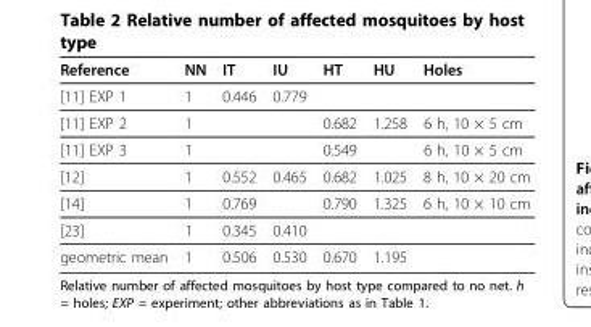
<table><thead><tr><td>Reference</td><td>NN</td><td>IT</td><td>IU</td><td>HT</td><td>HU</td><td>Holes</td></tr></thead><tbody><tr><td>[11] EXP 1</td><td>1</td><td>0.446</td><td>0.779</td><td></td><td></td><td></td></tr><tr><td>[11] EXP 2</td><td>1</td><td></td><td></td><td>0.682</td><td>1.258</td><td>6 h, 10 × 5 cm</td></tr><tr><td>[11] EXP 3</td><td>1</td><td></td><td></td><td>0.549</td><td></td><td>6 h, 10 × 5 cm</td></tr><tr><td>[12]</td><td>1</td><td>0.552</td><td>0.465</td><td>0.682</td><td>1.025</td><td>8 h, 10 × 20 cm</td></tr><tr><td>[14]</td><td>1</td><td>0.769</td><td></td><td>0.790</td><td>1.325</td><td>6 h, 10 × 10 cm</td></tr><tr><td>[23]</td><td>1</td><td>0.345</td><td>0.410</td><td></td><td></td><td></td></tr><tr><td>geometric mean</td><td>1</td><td>0.506</td><td>0.530</td><td>0.670</td><td>1.195</td><td></td></tr></tbody></table>